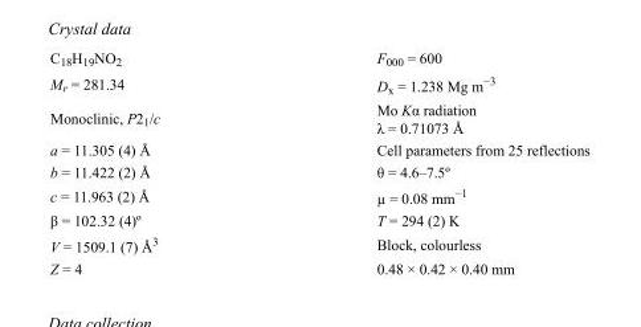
<table><tbody><tr><td>C<sub>18</sub>H<sub>19</sub>NO<sub>2</sub></td><td>F000 = 600</td></tr><tr><td>M<sub>r</sub> = 281.34</td><td>D<sub>x</sub> = 1.238 Mg m<sup>−3</sup></td></tr><tr><td>Monoclinic, P2<sub>1</sub>/c</td><td>Mo Kα radiation λ = 0.71073 Å</td></tr><tr><td>a = 11.305 (4) Å</td><td>Cell parameters from 25 reflections</td></tr><tr><td>b = 11.422 (2) Å</td><td>θ = 4.6–7.5º</td></tr><tr><td>c = 11.963 (2) Å</td><td>µ = 0.08 mm<sup>−1</sup></td></tr><tr><td>β = 102.32 (4)º</td><td>T = 294 (2) K</td></tr><tr><td>V = 1509.1 (7) Å<sup>3</sup></td><td>Block, colourless</td></tr><tr><td>Z = 4</td><td>0.48 × 0.42 × 0.40 mm</td></tr></tbody></table>